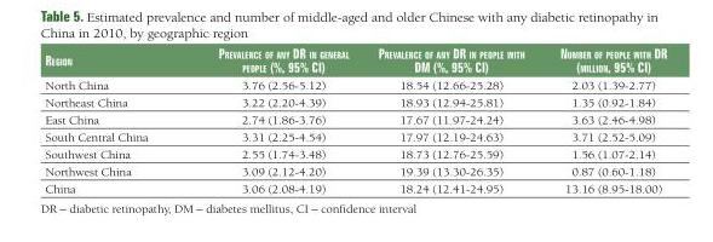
<table><thead><tr><td>Region</td><td>pRevalence of any dR in geneRal people (%, 95% ci)</td><td>pRevalence of any dR in people with dm (%, 95% ci)</td><td>numbeR of people with dR (million, 95% ci)</td></tr></thead><tbody><tr><td>North China</td><td>3.76 (2.56-5.12)</td><td>18.54 (12.66-25.28)</td><td>2.03 (1.39-2.77)</td></tr><tr><td>Northeast China</td><td>3.22 (2.20-4.39)</td><td>18.93 (12.94-25.81)</td><td>1.35 (0.92-1.84)</td></tr><tr><td>East China</td><td>2.74 (1.86-3.76)</td><td>17.67 (11.97-24.24)</td><td>3.63 (2.46-4.98)</td></tr><tr><td>South Central China</td><td>3.31 (2.25-4.54)</td><td>17.97 (12.19-24.63)</td><td>3.71 (2.52-5.09)</td></tr><tr><td>Southwest China</td><td>2.55 (1.74-3.48)</td><td>18.73 (12.76-25.59)</td><td>1.56 (1.07-2.14)</td></tr><tr><td>Northwest China</td><td>3.09 (2.12-4.20)</td><td>19.39 (13.30-26.35)</td><td>0.87 (0.60-1.18)</td></tr><tr><td>China</td><td>3.06 (2.08-4.19)</td><td>18.24 (12.41-24.95)</td><td>13.16 (8.95-18.00)</td></tr></tbody></table>